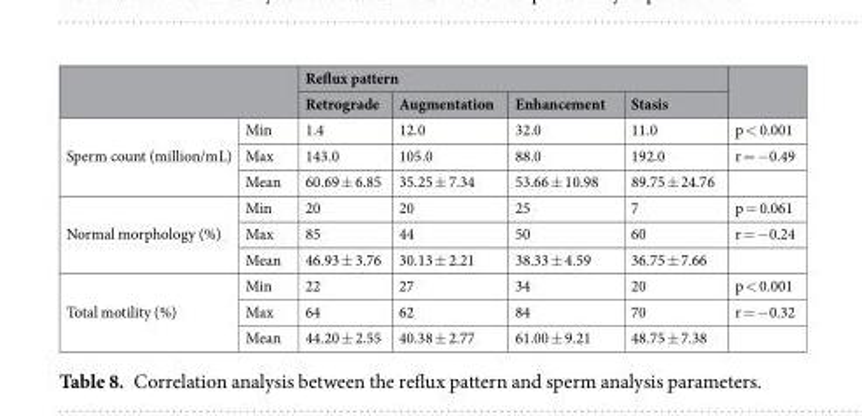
<table><thead><tr><td rowspan="2"></td><td rowspan="2"></td><td colspan="4">Reflux pattern</td><td rowspan="2"></td></tr><tr><td>Retrograde</td><td>Augmentation</td><td>Enhancement</td><td>Stasis</td></tr></thead><tbody><tr><td rowspan="3">Sperm count (million/mL)</td><td>Min</td><td>1.4</td><td>12.0</td><td>32.0</td><td>11.0</td><td>p &lt; 0.001</td></tr><tr><td>Max</td><td>143.0</td><td>105.0</td><td>88.0</td><td>192.0</td><td>r = −0.49</td></tr><tr><td>Mean</td><td>60.69 ± 6.85</td><td>35.25 ± 7.34</td><td>53.66 ± 10.98</td><td>89.75 ± 24.76</td><td></td></tr><tr><td rowspan="3">Normal morphology (%)</td><td>Min</td><td>20</td><td>20</td><td>25</td><td>7</td><td>p = 0.061</td></tr><tr><td>Max</td><td>85</td><td>44</td><td>50</td><td>60</td><td>r = −0.24</td></tr><tr><td>Mean</td><td>46.93 ± 3.76</td><td>30.13 ± 2.21</td><td>38.33 ± 4.59</td><td>36.75 ± 7.66</td><td></td></tr><tr><td rowspan="3">Total motility (%)</td><td>Min</td><td>22</td><td>27</td><td>34</td><td>20</td><td>p &lt; 0.001</td></tr><tr><td>Max</td><td>64</td><td>62</td><td>84</td><td>70</td><td>r = −0.32</td></tr><tr><td>Mean</td><td>44.20 ± 2.55</td><td>40.38 ± 2.77</td><td>61.00 ± 9.21</td><td>48.75 ± 7.38</td><td></td></tr></tbody></table>